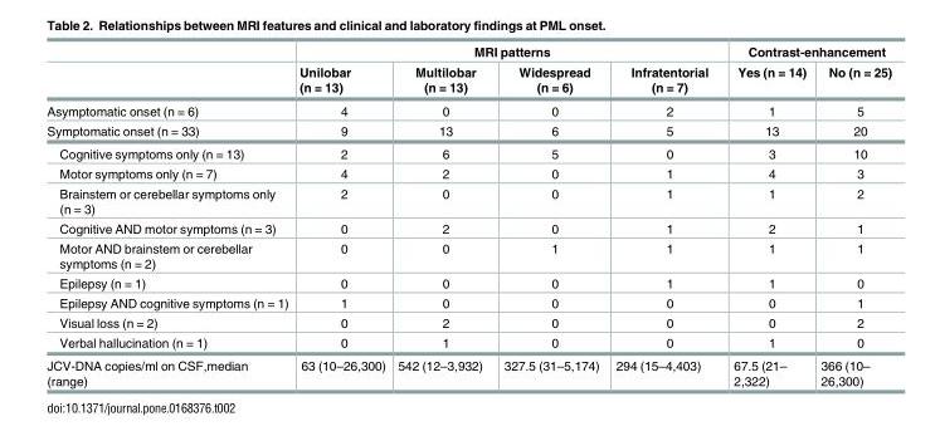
<table><thead><tr><td rowspan="2"></td><td colspan="4">MRI patterns</td><td colspan="2">Contrast-enhancement</td></tr><tr><td>Unilobar (n = 13)</td><td>Multilobar (n = 13)</td><td>Widespread (n = 6)</td><td>Infratentorial (n = 7)</td><td>Yes (n = 14)</td><td>No (n = 25)</td></tr></thead><tbody><tr><td>Asymptomatic onset (n = 6)</td><td>4</td><td>0</td><td>0</td><td>2</td><td>1</td><td>5</td></tr><tr><td>Symptomatic onset (n = 33)</td><td>9</td><td>13</td><td>6</td><td>5</td><td>13</td><td>20</td></tr><tr><td>Cognitive symptoms only (n = 13)</td><td>2</td><td>6</td><td>5</td><td>0</td><td>3</td><td>10</td></tr><tr><td>Motor symptoms only (n = 7)</td><td>4</td><td>2</td><td>0</td><td>1</td><td>4</td><td>3</td></tr><tr><td>Brainstem or cerebellar symptoms only (n = 3)</td><td>2</td><td>0</td><td>0</td><td>1</td><td>1</td><td>2</td></tr><tr><td>Cognitive AND motor symptoms (n = 3)</td><td>0</td><td>2</td><td>0</td><td>1</td><td>2</td><td>1</td></tr><tr><td>Motor AND brainstem or cerebellar symptoms (n = 2)</td><td>0</td><td>0</td><td>1</td><td>1</td><td>1</td><td>1</td></tr><tr><td>Epilepsy (n = 1)</td><td>0</td><td>0</td><td>0</td><td>1</td><td>1</td><td>0</td></tr><tr><td>Epilepsy AND cognitive symptoms (n = 1)</td><td>1</td><td>0</td><td>0</td><td>0</td><td>0</td><td>1</td></tr><tr><td>Visual loss (n = 2)</td><td>0</td><td>2</td><td>0</td><td>0</td><td>0</td><td>2</td></tr><tr><td>Verbal hallucination (n = 1)</td><td>0</td><td>1</td><td>0</td><td>0</td><td>1</td><td>0</td></tr><tr><td>JCV-DNA copies/ml on CSF,median (range)</td><td>63 (10–26,300)</td><td>542 (12–3,932)</td><td>327.5 (31–5,174)</td><td>294 (15–4,403)</td><td>67.5 (21– 2,322)</td><td>366 (10– 26,300)</td></tr></tbody></table>